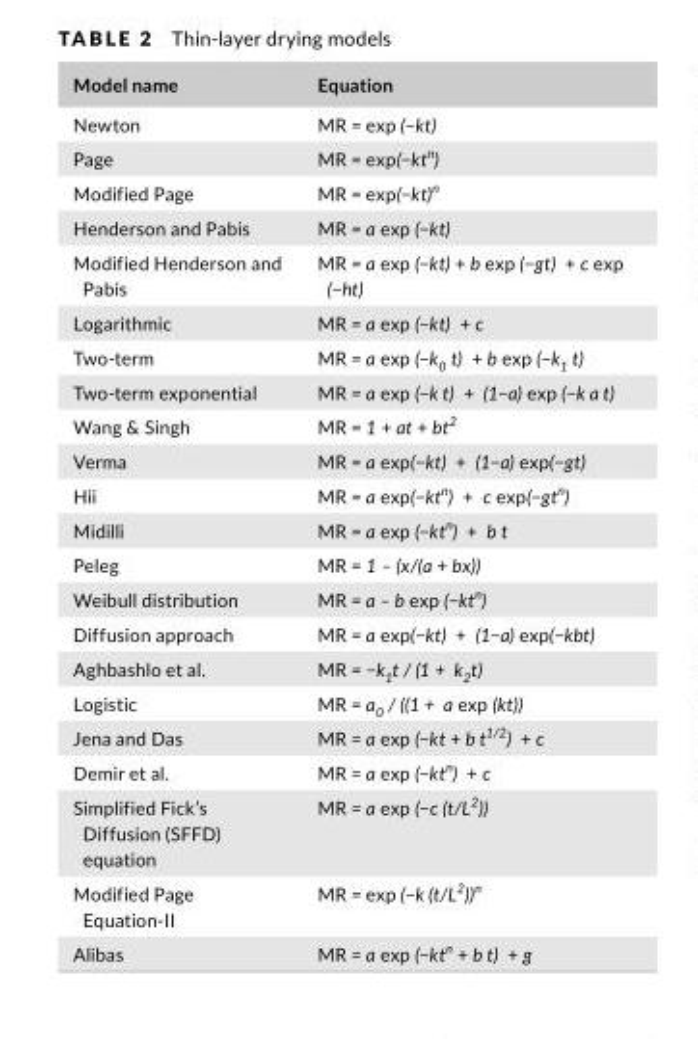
<table><thead><tr><td>Modelname</td><td>Equation</td></tr></thead><tbody><tr><td>Newton</td><td>MR = exp (−kt)</td></tr><tr><td>Page</td><td>MR = exp(−kt<sup>n</sup>)</td></tr><tr><td>Modified Page</td><td>MR = exp(−kt)<sup>n</sup></td></tr><tr><td>Henderson and Pabis</td><td>MR = a exp (−kt)</td></tr><tr><td>Modified Henderson and Pabis</td><td>MR = a exp (−kt) + b exp (−gt) + c exp (−ht)</td></tr><tr><td>Logarithmic</td><td>MR = a exp (−kt) + c</td></tr><tr><td>Two- term</td><td>MR = a exp (−k<sub>0</sub> t) + b exp (−k<sub>1</sub> t)</td></tr><tr><td>Two- term exponential</td><td>MR = a exp (−k t) + (1−a) exp (−k a t)</td></tr><tr><td>Wang &amp; Singh</td><td>MR = 1 + at + bt<sup>2</sup></td></tr><tr><td>Verma</td><td>MR = a exp(−kt) + (1−a) exp(−gt)</td></tr><tr><td>Hii</td><td>MR = a exp(−kt<sup>n</sup>) + c exp(−gt<sup>n</sup>)</td></tr><tr><td>Midilli</td><td>MR = a exp (−kt<sup>n</sup>) + b t</td></tr><tr><td>Peleg</td><td>MR = 1 – (x/(a + bx))</td></tr><tr><td>Weibull distribution</td><td>MR = a – b exp (−kt<sup>n</sup>)</td></tr><tr><td>Diffusion approach</td><td>MR = a exp(−kt) + (1−a) exp(−kbt)</td></tr><tr><td>Aghbashlo et al.</td><td>MR = −k<sub>1</sub>t / (1 + k<sub>2</sub>t)</td></tr><tr><td>Logistic</td><td>MR = a<sub>0</sub> / ((1 + a exp (kt))</td></tr><tr><td>Jena and Das</td><td>MR = a exp (−kt + b t<sup>1/2</sup>) + c</td></tr><tr><td>Demir et al.</td><td>MR = a exp (−kt<sup>n</sup>) + c</td></tr><tr><td>Simplified Fick’s Diffusion (SFFD) equation</td><td>MR = a exp (−c (t/L<sup>2</sup>))</td></tr><tr><td>Modified Page Equation- II</td><td>MR = exp (−k (t/L<sup>2</sup>))<sup>n</sup></td></tr><tr><td>Alibas</td><td>MR = a exp (−kt<sup>n</sup> + b t) + g</td></tr></tbody></table>